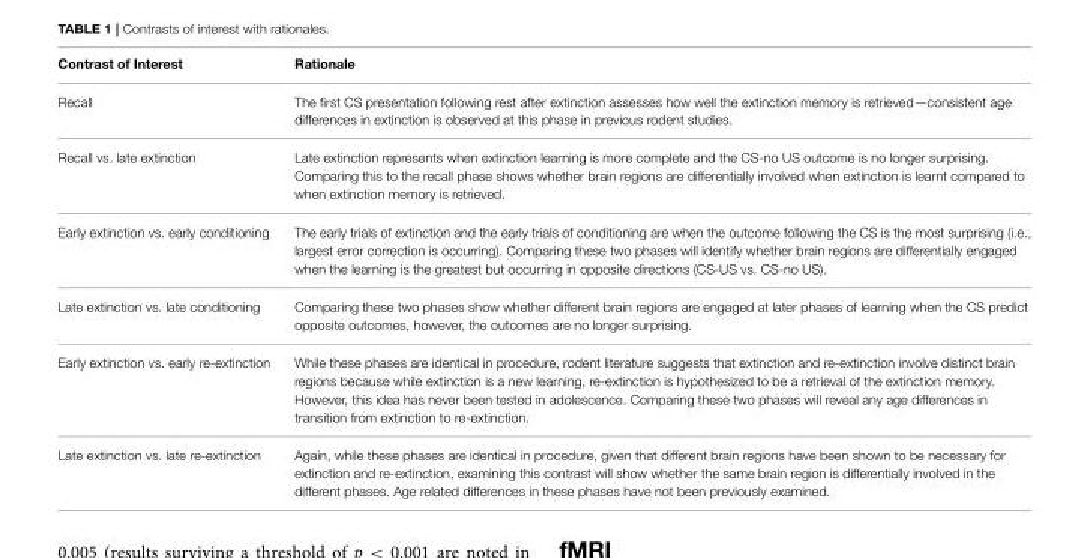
<table><thead><tr><td>Contrast of Interest</td><td>Rationale</td></tr></thead><tbody><tr><td>Recall</td><td>The first CS presentation following rest after extinction assesses how well the extinction memory is retrieved—consistent age differences in extinction is observed at this phase in previous rodent studies.</td></tr><tr><td>Recall vs. late extinction</td><td>Late extinction represents when extinction learning is more complete and the CS-no US outcome is no longer surprising. Comparing this to the recall phase shows whether brain regions are differentially involved when extinction is learnt compared to when extinction memory is retrieved.</td></tr><tr><td>Early extinction vs. early conditioning</td><td>The early trials of extinction and the early trials of conditioning are when the outcome following the CS is the most surprising (i.e., largest error correction is occurring). Comparing these two phases will identify whether brain regions are differentially engaged when the learning is the greatest but occurring in opposite directions (CS-US vs. CS-no US).</td></tr><tr><td>Late extinction vs. late conditioning</td><td>Comparing these two phases show whether different brain regions are engaged at later phases of learning when the CS predict opposite outcomes, however, the outcomes are no longer surprising.</td></tr><tr><td>Early extinction vs. early re-extinction</td><td>While these phases are identical in procedure, rodent literature suggests that extinction and re-extinction involve distinct brain regions because while extinction is a new learning, re-extinction is hypothesized to be a retrieval of the extinction memory. However, this idea has never been tested in adolescence. Comparing these two phases will reveal any age differences in transition from extinction to re-extinction.</td></tr><tr><td>Late extinction vs. late re-extinction</td><td>Again, while these phases are identical in procedure, given that different brain regions have been shown to be necessary for extinction and re-extinction, examining this contrast will show whether the same brain region is differentially involved in the different phases. Age related differences in these phases have not been previously examined.</td></tr></tbody></table>